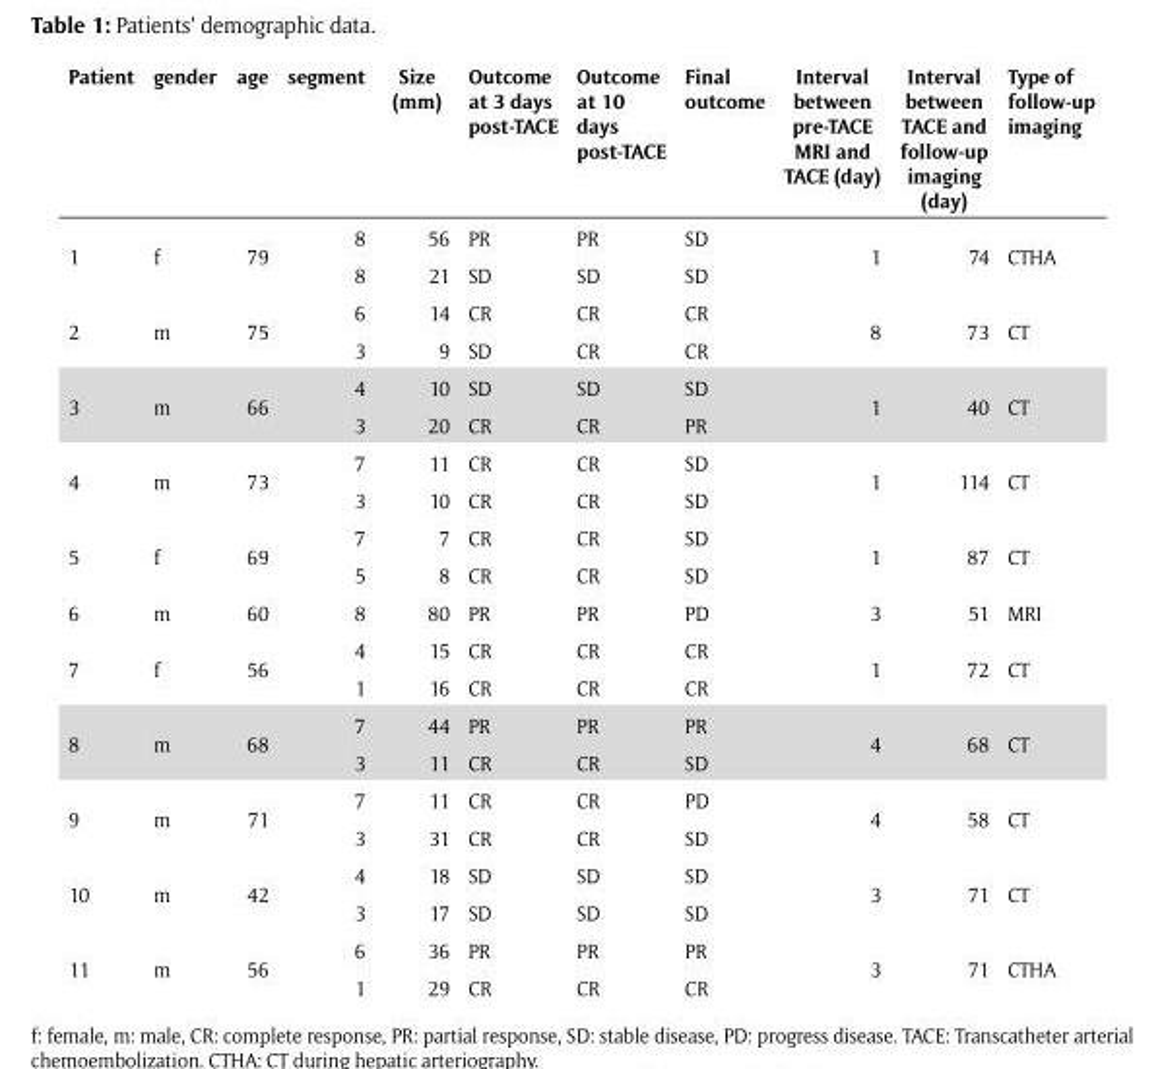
<table><thead><tr><td>Patient</td><td>gender</td><td>age</td><td>segment</td><td>Size (mm)</td><td>Outcome at 3 days post-TACE</td><td>Outcome at 10 days post-TACE</td><td>Final outcome</td><td>Interval between pre-TACE MRI and TACE (day)</td><td>Interval between TACE and follow-up imaging (day)</td><td>Type of follow-up imaging</td></tr></thead><tbody><tr><td rowspan="2">1</td><td rowspan="2">f</td><td rowspan="2">79</td><td>8</td><td>56</td><td>PR</td><td>PR</td><td>SD</td><td rowspan="2">1</td><td rowspan="2">74</td><td rowspan="2">CTHA</td></tr><tr><td>8</td><td>21</td><td>SD</td><td>SD</td><td>SD</td></tr><tr><td rowspan="2">2</td><td rowspan="2">m</td><td rowspan="2">75</td><td>6</td><td>14</td><td>CR</td><td>CR</td><td>CR</td><td rowspan="2">8</td><td rowspan="2">73</td><td rowspan="2">CT</td></tr><tr><td>3</td><td>9</td><td>SD</td><td>CR</td><td>CR</td></tr><tr><td rowspan="2">3</td><td rowspan="2">m</td><td rowspan="2">66</td><td>4</td><td>10</td><td>SD</td><td>SD</td><td>SD</td><td rowspan="2">1</td><td rowspan="2">40</td><td rowspan="2">CT</td></tr><tr><td>3</td><td>20</td><td>CR</td><td>CR</td><td>PR</td></tr><tr><td rowspan="2">4</td><td rowspan="2">m</td><td rowspan="2">73</td><td>7</td><td>11</td><td>CR</td><td>CR</td><td>SD</td><td rowspan="2">1</td><td rowspan="2">114</td><td rowspan="2">CT</td></tr><tr><td>3</td><td>10</td><td>CR</td><td>CR</td><td>SD</td></tr><tr><td rowspan="2">5</td><td rowspan="2">f</td><td rowspan="2">69</td><td>7</td><td>7</td><td>CR</td><td>CR</td><td>SD</td><td rowspan="2">1</td><td rowspan="2">87</td><td rowspan="2">CT</td></tr><tr><td>5</td><td>8</td><td>CR</td><td>CR</td><td>SD</td></tr><tr><td>6</td><td>m</td><td>60</td><td>8</td><td>80</td><td>PR</td><td>PR</td><td>PD</td><td>3</td><td>51</td><td>MRI</td></tr><tr><td rowspan="2">7</td><td rowspan="2">f</td><td rowspan="2">56</td><td>4</td><td>15</td><td>CR</td><td>CR</td><td>CR</td><td rowspan="2">1</td><td rowspan="2">72</td><td rowspan="2">CT</td></tr><tr><td>1</td><td>16</td><td>CR</td><td>CR</td><td>CR</td></tr><tr><td rowspan="2">8</td><td rowspan="2">m</td><td rowspan="2">68</td><td>7</td><td>44</td><td>PR</td><td>PR</td><td>PR</td><td rowspan="2">4</td><td rowspan="2">68</td><td rowspan="2">CT</td></tr><tr><td>3</td><td>11</td><td>CR</td><td>CR</td><td>SD</td></tr><tr><td rowspan="2">9</td><td rowspan="2">m</td><td rowspan="2">71</td><td>7</td><td>11</td><td>CR</td><td>CR</td><td>PD</td><td rowspan="2">4</td><td rowspan="2">58</td><td rowspan="2">CT</td></tr><tr><td>3</td><td>31</td><td>CR</td><td>CR</td><td>SD</td></tr><tr><td rowspan="2">10</td><td rowspan="2">m</td><td rowspan="2">42</td><td>4</td><td>18</td><td>SD</td><td>SD</td><td>SD</td><td rowspan="2">3</td><td rowspan="2">71</td><td rowspan="2">CT</td></tr><tr><td>3</td><td>17</td><td>SD</td><td>SD</td><td>SD</td></tr><tr><td rowspan="2">11</td><td rowspan="2">m</td><td rowspan="2">56</td><td>6</td><td>36</td><td>PR</td><td>PR</td><td>PR</td><td rowspan="2">3</td><td rowspan="2">71</td><td rowspan="2">CTHA</td></tr><tr><td>1</td><td>29</td><td>CR</td><td>CR</td><td>CR</td></tr></tbody></table>